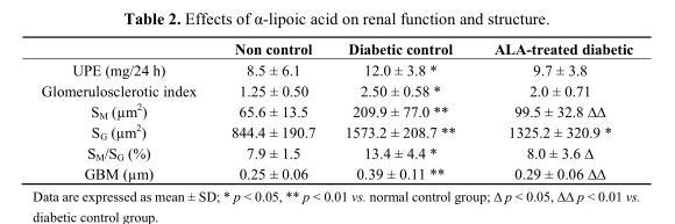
<table><thead><tr><td></td><td>Non control</td><td>Diabetic control</td><td>ALA-treated diabetic</td></tr></thead><tbody><tr><td>UPE (mg/24 h)</td><td>8.5 ± 6.1</td><td>12.0 ± 3.8 *</td><td>9.7 ± 3.8</td></tr><tr><td>Glomerulosclerotic index</td><td>1.25 ± 0.50</td><td>2.50 ± 0.58 *</td><td>2.0 ± 0.71</td></tr><tr><td>S<sub>M</sub> (µm<sup>2</sup>)</td><td>65.6 ± 13.5</td><td>209.9 ± 77.0 **</td><td>99.5 ± 32.8 ∆∆</td></tr><tr><td>S<sub>G</sub> (µm<sup>2</sup>)</td><td>844.4 ± 190.7</td><td>1573.2 ± 208.7 **</td><td>1325.2 ± 320.9 *</td></tr><tr><td>S<sub>M</sub>/S<sub>G</sub> (%)</td><td>7.9 ± 1.5</td><td>13.4 ± 4.4 *</td><td>8.0 ± 3.6 ∆</td></tr><tr><td>GBM (µm)</td><td>0.25 ± 0.06</td><td>0.39 ± 0.11 **</td><td>0.29 ± 0.06 ∆∆</td></tr></tbody></table>